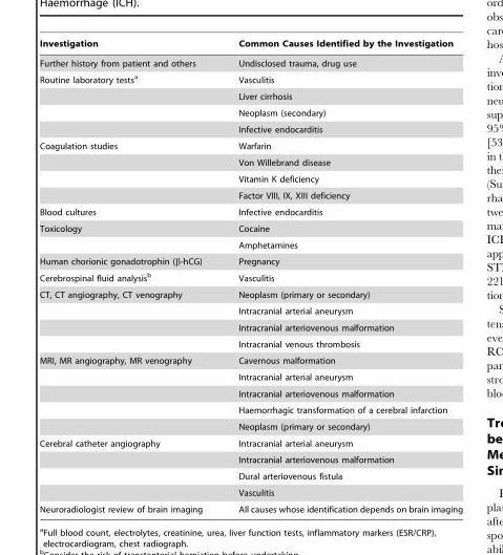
<table><thead><tr><td>Investigation</td><td>Common Causes Identified by the Investigation</td></tr></thead><tbody><tr><td>Further history from patient and others</td><td>Undisclosed trauma, drug use</td></tr><tr><td rowspan="4">Routine laboratory tests<sup>a</sup></td><td>Vasculitis</td></tr><tr><td>Liver cirrhosis</td></tr><tr><td>Neoplasm (secondary)</td></tr><tr><td>Infective endocarditis</td></tr><tr><td rowspan="4">Coagulation studies</td><td>Warfarin</td></tr><tr><td>Von Willebrand disease</td></tr><tr><td>Vitamin K deficiency</td></tr><tr><td>Factor VIII, IX, XIII deficiency</td></tr><tr><td>Blood cultures</td><td>Infective endocarditis</td></tr><tr><td rowspan="2">Toxicology</td><td>Cocaine</td></tr><tr><td>Amphetamines</td></tr><tr><td>Human chorionic gonadotrophin (β-hCG)</td><td>Pregnancy</td></tr><tr><td>Cerebrospinal fluid analysis<sup>b</sup></td><td>Vasculitis</td></tr><tr><td rowspan="4">CT, CT angiography, CT venography</td><td>Neoplasm (primary or secondary)</td></tr><tr><td>Intracranial arterial aneurysm</td></tr><tr><td>Intracranial arteriovenous malformation</td></tr><tr><td>Intracranial venous thrombosis</td></tr><tr><td rowspan="5">MRI, MR angiography, MR venography</td><td>Cavernous malformation</td></tr><tr><td>Intracranial arterial aneurysm</td></tr><tr><td>Intracranial arteriovenous malformation</td></tr><tr><td>Haemorrhagic transformation of a cerebral infarction</td></tr><tr><td>Neoplasm (primary or secondary)</td></tr><tr><td rowspan="4">Cerebral catheter angiography</td><td>Intracranial arterial aneurysm</td></tr><tr><td>Intracranial arteriovenous malformation</td></tr><tr><td>Dural arteriovenous fistula</td></tr><tr><td>Vasculitis</td></tr><tr><td>Neuroradiologist review of brain imaging</td><td>All causes whose identification depends on brain imaging</td></tr></tbody></table>